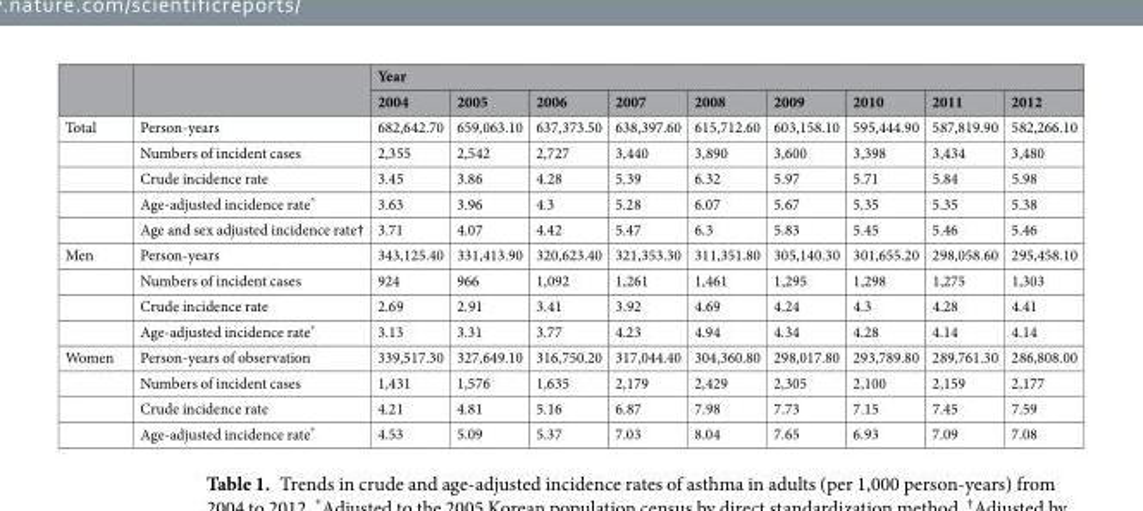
<table><thead><tr><td rowspan="2"></td><td rowspan="2"></td><td colspan="9">Year</td></tr><tr><td>2004</td><td>2005</td><td>2006</td><td>2007</td><td>2008</td><td>2009</td><td>2010</td><td>2011</td><td>2012</td></tr></thead><tbody><tr><td rowspan="5">Total</td><td>Person-years</td><td>682,642.70</td><td>659,063.10</td><td>637,373.50</td><td>638,397.60</td><td>615,712.60</td><td>603,158.10</td><td>595,444.90</td><td>587,819.90</td><td>582,266.10</td></tr><tr><td>Numbers of incident cases</td><td>2,355</td><td>2,542</td><td>2,727</td><td>3,440</td><td>3,890</td><td>3,600</td><td>3,398</td><td>3,434</td><td>3,480</td></tr><tr><td>Crude incidence rate</td><td>3.45</td><td>3.86</td><td>4.28</td><td>5.39</td><td>6.32</td><td>5.97</td><td>5.71</td><td>5.84</td><td>5.98</td></tr><tr><td>Age-adjusted incidence rate*</td><td>3.63</td><td>3.96</td><td>4.3</td><td>5.28</td><td>6.07</td><td>5.67</td><td>5.35</td><td>5.35</td><td>5.38</td></tr><tr><td>Age and sex adjusted incidence rate†</td><td>3.71</td><td>4.07</td><td>4.42</td><td>5.47</td><td>6.3</td><td>5.83</td><td>5.45</td><td>5.46</td><td>5.46</td></tr><tr><td rowspan="4">Men</td><td>Person-years</td><td>343,125.40</td><td>331,413.90</td><td>320,623.40</td><td>321,353.30</td><td>311,351.80</td><td>305,140.30</td><td>301,655.20</td><td>298,058.60</td><td>295,458.10</td></tr><tr><td>Numbers of incident cases</td><td>924</td><td>966</td><td>1,092</td><td>1,261</td><td>1,461</td><td>1,295</td><td>1,298</td><td>1,275</td><td>1,303</td></tr><tr><td>Crude incidence rate</td><td>2.69</td><td>2.91</td><td>3.41</td><td>3.92</td><td>4.69</td><td>4.24</td><td>4.3</td><td>4.28</td><td>4.41</td></tr><tr><td>Age-adjusted incidence rate*</td><td>3.13</td><td>3.31</td><td>3.77</td><td>4.23</td><td>4.94</td><td>4.34</td><td>4.28</td><td>4.14</td><td>4.14</td></tr><tr><td rowspan="4">Women</td><td>Person-years of observation</td><td>339,517.30</td><td>327,649.10</td><td>316,750.20</td><td>317,044.40</td><td>304,360.80</td><td>298,017.80</td><td>293,789.80</td><td>289,761.30</td><td>286,808.00</td></tr><tr><td>Numbers of incident cases</td><td>1,431</td><td>1,576</td><td>1,635</td><td>2,179</td><td>2,429</td><td>2,305</td><td>2,100</td><td>2,159</td><td>2,177</td></tr><tr><td>Crude incidence rate</td><td>4.21</td><td>4.81</td><td>5.16</td><td>6.87</td><td>7.98</td><td>7.73</td><td>7.15</td><td>7.45</td><td>7.59</td></tr><tr><td>Age-adjusted incidence rate*</td><td>4.53</td><td>5.09</td><td>5.37</td><td>7.03</td><td>8.04</td><td>7.65</td><td>6.93</td><td>7.09</td><td>7.08</td></tr></tbody></table>